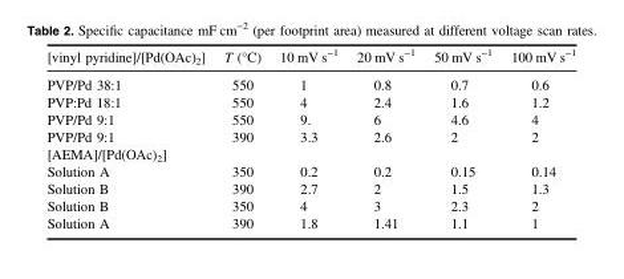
<table><thead><tr><td>[vinyl pyridine]/[Pd(OAc)<sub>2</sub>]</td><td>T (°C)</td><td>10 mV s<sup>−1</sup></td><td>20 mV s<sup>−1</sup></td><td>50 mV s<sup>−1</sup></td><td>100 mV s<sup>−1</sup></td></tr></thead><tbody><tr><td>PVP/Pd 38:1</td><td>550</td><td>1</td><td>0.8</td><td>0.7</td><td>0.6</td></tr><tr><td>PVP:Pd 18:1</td><td>550</td><td>4</td><td>2.4</td><td>1.6</td><td>1.2</td></tr><tr><td>PVP/Pd 9:1</td><td>550</td><td>9.</td><td>6</td><td>4.6</td><td>4</td></tr><tr><td>PVP/Pd 9:1</td><td>390</td><td>3.3</td><td>2.6</td><td>2</td><td>2</td></tr><tr><td colspan="6">[AEMA]/[Pd(OAc)<sub>2</sub>]</td></tr><tr><td>Solution A</td><td>350</td><td>0.2</td><td>0.2</td><td>0.15</td><td>0.14</td></tr><tr><td>Solution B</td><td>390</td><td>2.7</td><td>2</td><td>1.5</td><td>1.3</td></tr><tr><td>Solution B</td><td>350</td><td>4</td><td>3</td><td>2.3</td><td>2</td></tr><tr><td>Solution A</td><td>390</td><td>1.8</td><td>1.41</td><td>1.1</td><td>1</td></tr></tbody></table>